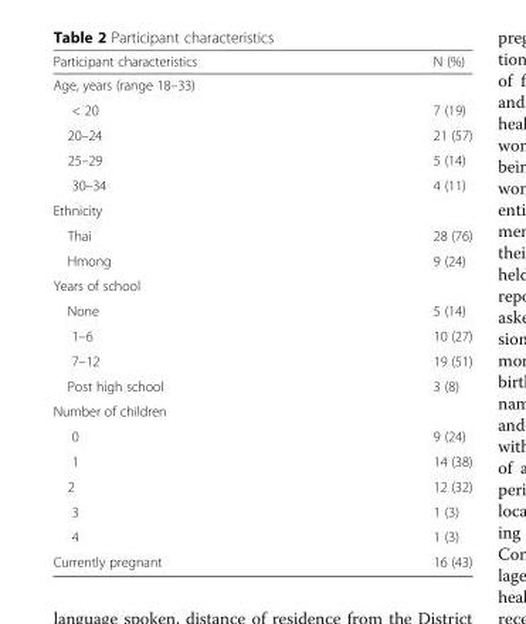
<table><thead><tr><td>Participant characteristics</td><td>N (%)</td></tr></thead><tbody><tr><td colspan="2">Age, years (range 18–33)</td></tr><tr><td>&lt; 20</td><td>7 (19)</td></tr><tr><td>20–24</td><td>21 (57)</td></tr><tr><td>25–29</td><td>5 (14)</td></tr><tr><td>30–34</td><td>4 (11)</td></tr><tr><td colspan="2">Ethnicity</td></tr><tr><td>Thai</td><td>28 (76)</td></tr><tr><td>Hmong</td><td>9 (24)</td></tr><tr><td colspan="2">Years of school</td></tr><tr><td>None</td><td>5 (14)</td></tr><tr><td>1–6</td><td>10 (27)</td></tr><tr><td>7–12</td><td>19 (51)</td></tr><tr><td>Post high school</td><td>3 (8)</td></tr><tr><td colspan="2">Number of children</td></tr><tr><td>0</td><td>9 (24)</td></tr><tr><td>1</td><td>14 (38)</td></tr><tr><td>2</td><td>12 (32)</td></tr><tr><td>3</td><td>1 (3)</td></tr><tr><td>4</td><td>1 (3)</td></tr><tr><td>Currently pregnant</td><td>16 (43)</td></tr></tbody></table>